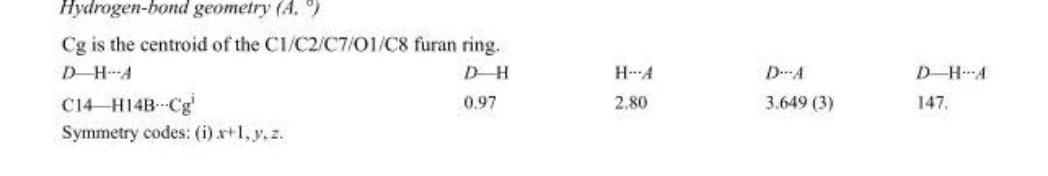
<table><tbody><tr><td>D—H···A</td><td>D—H</td><td>H···A</td><td>D···A</td><td>D—H···A</td></tr><tr><td>C14—H14B···Cg<sup>i</sup></td><td>0.97</td><td>2.80</td><td>3.649 (3)</td><td>147.</td></tr></tbody></table>